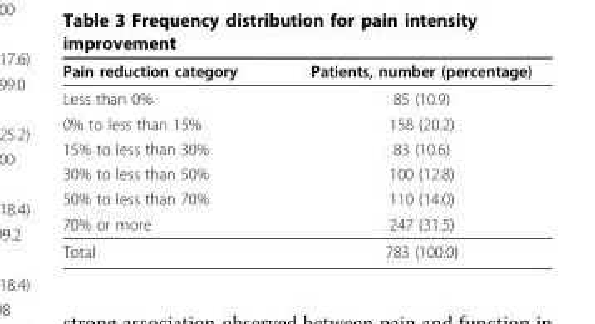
<table><thead><tr><td>Pain reduction category</td><td>Patients, number (percentage)</td></tr></thead><tbody><tr><td>Less than 0%</td><td>85 (10.9)</td></tr><tr><td>0% to less than 15%</td><td>158 (20.2)</td></tr><tr><td>15% to less than 30%</td><td>83 (10.6)</td></tr><tr><td>30% to less than 50%</td><td>100 (12.8)</td></tr><tr><td>50% to less than 70%</td><td>110 (14.0)</td></tr><tr><td>70% or more</td><td>247 (31.5)</td></tr><tr><td>Total</td><td>783 (100.0)</td></tr></tbody></table>